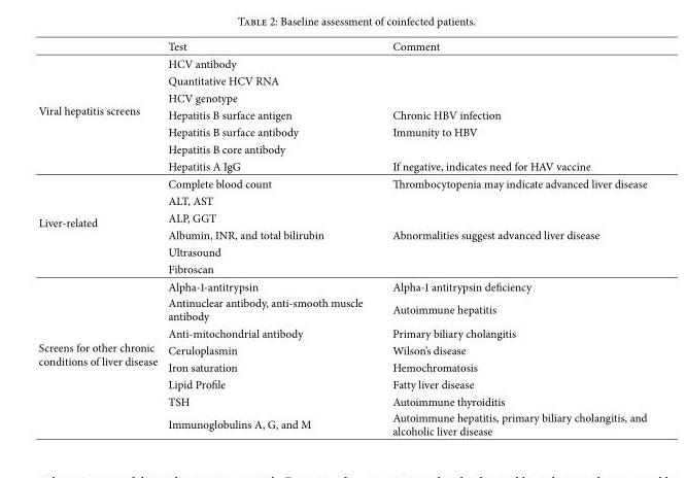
<table><thead><tr><td></td><td>Test</td><td>Comment</td></tr></thead><tbody><tr><td rowspan="7">Viral hepatitis screens</td><td>HCV antibody</td><td></td></tr><tr><td>Quantitative HCV RNA</td><td></td></tr><tr><td>HCV genotype</td><td></td></tr><tr><td>Hepatitis B surface antigen</td><td>Chronic HBV infection</td></tr><tr><td>Hepatitis B surface antibody</td><td>Immunity to HBV</td></tr><tr><td>Hepatitis B core antibody</td><td></td></tr><tr><td>Hepatitis A IgG</td><td>If negative, indicates need for HAV vaccine</td></tr><tr><td rowspan="6">Liver-related</td><td>Complete blood count</td><td>Thrombocytopenia may indicate advanced liver disease</td></tr><tr><td>ALT, AST</td><td></td></tr><tr><td>ALP, GGT</td><td></td></tr><tr><td>Albumin, INR, and total bilirubin</td><td>Abnormalities suggest advanced liver disease</td></tr><tr><td>Ultrasound</td><td></td></tr><tr><td>Fibroscan</td><td></td></tr><tr><td rowspan="8">Screens for other chronic conditions of liver disease</td><td>Alpha-1-antitrypsin</td><td>Alpha-1 antitrypsin deficiency</td></tr><tr><td>Antinuclear antibody, anti-smooth muscle antibody</td><td>Autoimmune hepatitis</td></tr><tr><td>Anti-mitochondrial antibody</td><td>Primary biliary cholangitis</td></tr><tr><td>Ceruloplasmin</td><td>Wilson’s disease</td></tr><tr><td>Iron saturation</td><td>Hemochromatosis</td></tr><tr><td>Lipid Profile</td><td>Fatty liver disease</td></tr><tr><td>TSH</td><td>Autoimmune thyroiditis</td></tr><tr><td>Immunoglobulins A, G, and M</td><td>Autoimmune hepatitis, primary biliary cholangitis, and alcoholic liver disease</td></tr></tbody></table>